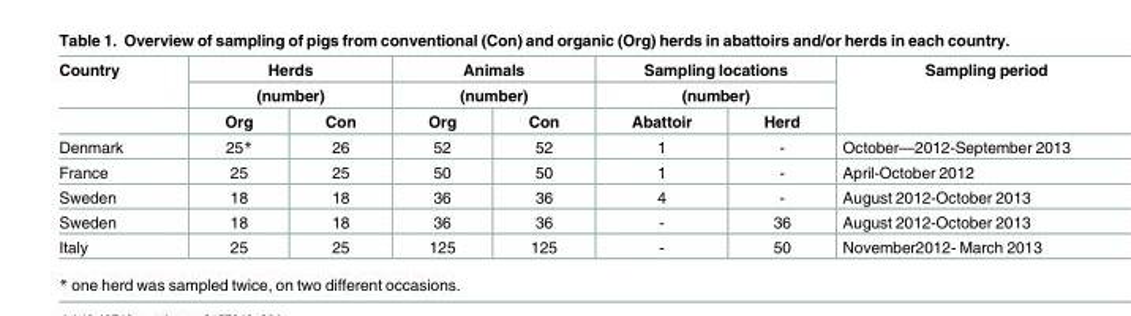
<table><thead><tr><td rowspan="3">Country</td><td rowspan="2" colspan="2">Herds (number)</td><td rowspan="2" colspan="2">Animals (number)</td><td rowspan="2" colspan="2">Sampling locations (number)</td><td rowspan="3">Sampling period</td></tr><tr></tr><tr><td>Org</td><td>Con</td><td>Org</td><td>Con</td><td>Abattoir</td><td>Herd</td></tr></thead><tbody><tr><td>Denmark</td><td>25*</td><td>26</td><td>52</td><td>52</td><td>1</td><td>-</td><td>October—2012-September 2013</td></tr><tr><td>France</td><td>25</td><td>25</td><td>50</td><td>50</td><td>1</td><td>-</td><td>April-October 2012</td></tr><tr><td>Sweden</td><td>18</td><td>18</td><td>36</td><td>36</td><td>4</td><td>-</td><td>August 2012-October 2013</td></tr><tr><td>Sweden</td><td>18</td><td>18</td><td>36</td><td>36</td><td>-</td><td>36</td><td>August 2012-October 2013</td></tr><tr><td>Italy</td><td>25</td><td>25</td><td>125</td><td>125</td><td>-</td><td>50</td><td>November2012- March 2013</td></tr></tbody></table>